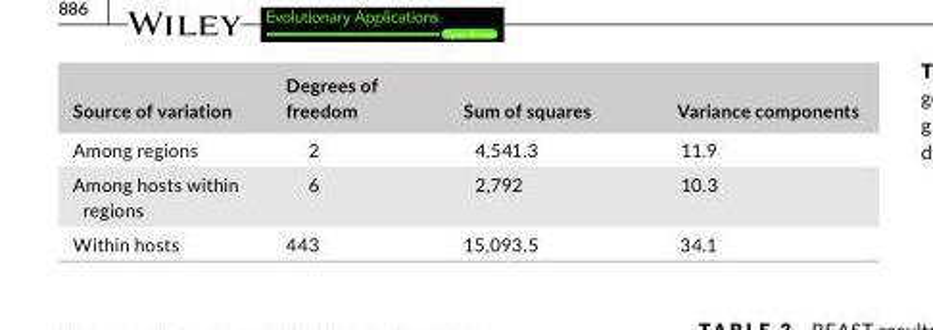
<table><thead><tr><td>Source of variation</td><td>Degrees of freedom</td><td>Sum of squares</td><td>Variance components</td></tr></thead><tbody><tr><td>Among regions</td><td>2</td><td>4,541.3</td><td>11.9</td></tr><tr><td>Among hosts within regions</td><td>6</td><td>2,792</td><td>10.3</td></tr><tr><td>Within hosts</td><td>443</td><td>15,093.5</td><td>34.1</td></tr></tbody></table>